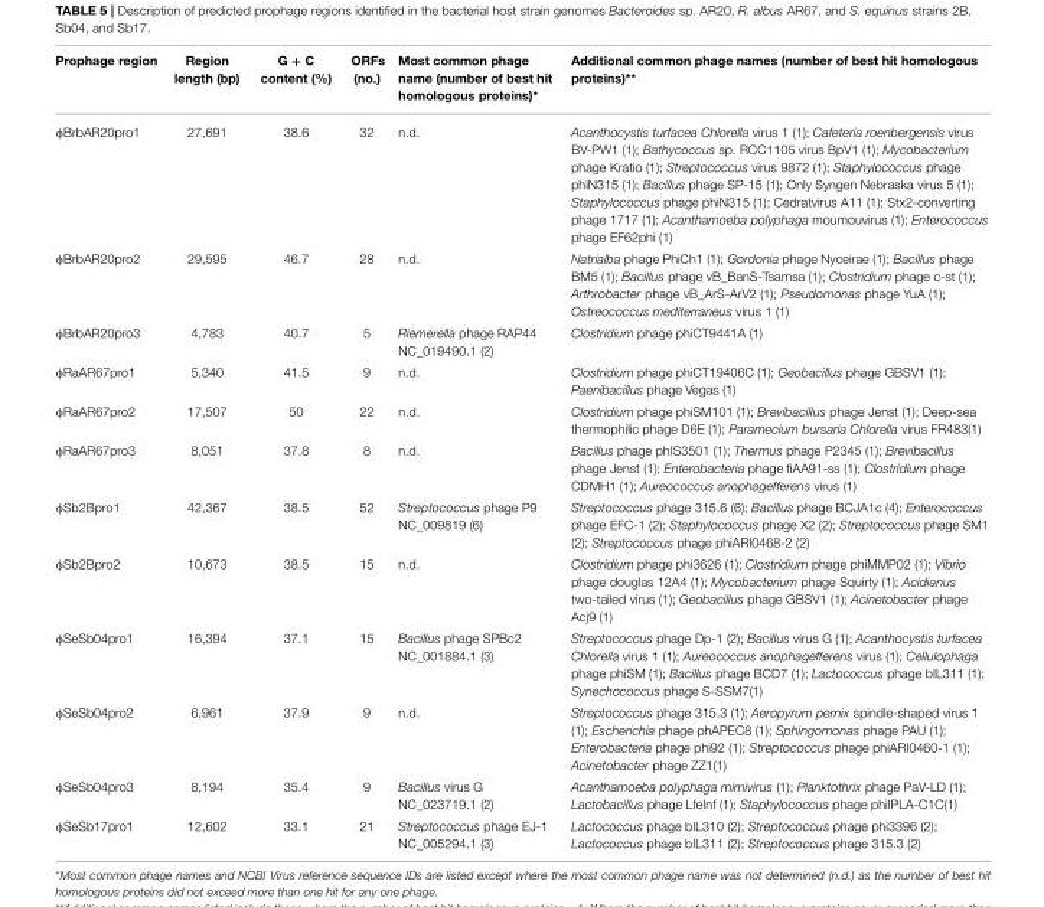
<table><thead><tr><td>Prophage region</td><td>Region length (bp)</td><td>G + C content (%)</td><td>ORFs (no.)</td><td>Most common phage name (number of best hit homologous proteins)*</td><td>Additional common phage names (number of best hit homologous proteins)**</td></tr></thead><tbody><tr><td>φBrbAR20pro1</td><td>27,691</td><td>38.6</td><td>32</td><td>n.d.</td><td>Acanthocystis turfacea Chlorella virus 1 (1); Cafeteria roenbergensis virus BV-PW1 (1); Bathycoccus sp. RCC1105 virus BpV1 (1); Mycobacterium phage Kratio (1); Streptococcus virus 9872 (1); Staphylococcus phage phiN315 (1); Bacillus phage SP-15 (1); Only Syngen Nebraska virus 5 (1); Staphylococcus phage phiN315 (1); Cedratvirus A11 (1); Stx2-converting phage 1717 (1); Acanthamoeba polyphaga moumouvirus (1); Enterococcus phage EF62phi (1)</td></tr><tr><td>φBrbAR20pro2</td><td>29,595</td><td>46.7</td><td>28</td><td>n.d.</td><td>Natrialba phage PhiCh1 (1); Gordonia phage Nyceirae (1); Bacillus phage BM5 (1); Bacillus phage vB_BanS-Tsamsa (1); Clostridium phage c-st (1); Arthrobacter phage vB_ArS-ArV2 (1); Pseudomonas phage YuA (1); Ostreococcus mediterraneus virus 1 (1)</td></tr><tr><td>φBrbAR20pro3</td><td>4,783</td><td>40.7</td><td>5</td><td>Riemerella phage RAP44 NC_019490.1 (2)</td><td>Clostridium phage phiCT9441A (1)</td></tr><tr><td>φRaAR67pro1</td><td>5,340</td><td>41.5</td><td>9</td><td>n.d.</td><td>Clostridium phage phiCT19406C (1); Geobacillus phage GBSV1 (1); Paenibacillus phage Vegas (1)</td></tr><tr><td>φRaAR67pro2</td><td>17,507</td><td>50</td><td>22</td><td>n.d.</td><td>Clostridium phage phiSM101 (1); Brevibacillus phage Jenst (1); Deep-sea thermophilic phage D6E (1); Paramecium bursaria Chlorella virus FR483(1)</td></tr><tr><td>φRaAR67pro3</td><td>8,051</td><td>37.8</td><td>8</td><td>n.d.</td><td>Bacillus phage phIS3501 (1); Thermus phage P2345 (1); Brevibacillus phage Jenst (1); Enterobacteria phage fiAA91-ss (1); Clostridium phage CDMH1 (1); Aureococcus anophagefferens virus (1)</td></tr><tr><td>φSb2Bpro1</td><td>42,367</td><td>38.5</td><td>52</td><td>Streptococcus phage P9 NC_009819 (6)</td><td>Streptococcus phage 315.6 (6); Bacillus phage BCJA1c (4); Enterococcus phage EFC-1 (2); Staphylococcus phage X2 (2); Streptococcus phage SM1 (2); Streptococcus phage phiARI0468-2 (2)</td></tr><tr><td>φSb2Bpro2</td><td>10,673</td><td>38.5</td><td>15</td><td>n.d.</td><td>Clostridium phage phi3626 (1); Clostridium phage phiMMP02 (1); Vibrio phage douglas 12A4 (1); Mycobacterium phage Squirty (1); Acidianus two-tailed virus (1); Geobacillus phage GBSV1 (1); Acinetobacter phage Acj9 (1)</td></tr><tr><td>φSeSb04pro1</td><td>16,394</td><td>37.1</td><td>15</td><td>Bacillus phage SPBc2 NC_001884.1 (3)</td><td>Streptococcus phage Dp-1 (2); Bacillus virus G (1); Acanthocystis turfacea Chlorella virus 1 (1); Aureococcus anophagefferens virus (1); Cellulophaga phage phiSM (1); Bacillus phage BCD7 (1); Lactococcus phage bIL311 (1); Synechococcus phage S-SSM7(1)</td></tr><tr><td>φSeSb04pro2</td><td>6,961</td><td>37.9</td><td>9</td><td>n.d.</td><td>Streptococcus phage 315.3 (1); Aeropyrum pernix spindle-shaped virus 1 (1); Escherichia phage phAPEC8 (1); Sphingomonas phage PAU (1); Enterobacteria phage phi92 (1); Streptococcus phage phiARI0460-1 (1); Acinetobacter phage ZZ1(1)</td></tr><tr><td>φSeSb04pro3</td><td>8,194</td><td>35.4</td><td>9</td><td>Bacillus virus G NC_023719.1 (2)</td><td>Acanthamoeba polyphaga mimivirus (1); Planktothrix phage PaV-LD (1); Lactobacillus phage LfeInf (1); Staphylococcus phage phiIPLA-C1C(1)</td></tr><tr><td>φSeSb17pro1</td><td>12,602</td><td>33.1</td><td>21</td><td>Streptococcus phage EJ-1 NC_005294.1 (3)</td><td>Lactococcus phage bIL310 (2); Streptococcus phage phi3396 (2); Lactococcus phage bIL311 (2); Streptococcus phage 315.3 (2)</td></tr></tbody></table>